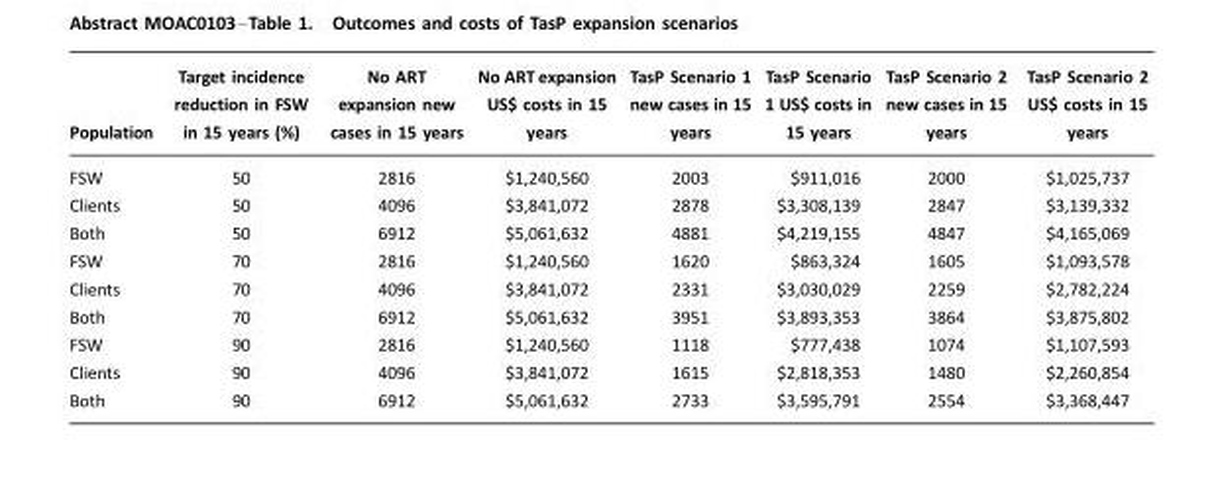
<table><thead><tr><td>Population</td><td>Target incidence reduction in FSW in 15 years (%)</td><td>No ART expansion new cases in 15 years</td><td>No ART expansion US$ costs in 15 years</td><td>TasP Scenario 1 new cases in 15 years</td><td>TasP Scenario 1 US$ costs in 15 years</td><td>TasP Scenario 2 new cases in 15 years</td><td>TasP Scenario 2 US$ costs in 15 years</td></tr></thead><tbody><tr><td>FSW</td><td>50</td><td>2816</td><td>$1,240,560</td><td>2003</td><td>$911,016</td><td>2000</td><td>$1,025,737</td></tr><tr><td>Clients</td><td>50</td><td>4096</td><td>$3,841,072</td><td>2878</td><td>$3,308,139</td><td>2847</td><td>$3,139,332</td></tr><tr><td>Both</td><td>50</td><td>6912</td><td>$5,061,632</td><td>4881</td><td>$4,219,155</td><td>4847</td><td>$4,165,069</td></tr><tr><td>FSW</td><td>70</td><td>2816</td><td>$1,240,560</td><td>1620</td><td>$863,324</td><td>1605</td><td>$1,093,578</td></tr><tr><td>Clients</td><td>70</td><td>4096</td><td>$3,841,072</td><td>2331</td><td>$3,030,029</td><td>2259</td><td>$2,782,224</td></tr><tr><td>Both</td><td>70</td><td>6912</td><td>$5,061,632</td><td>3951</td><td>$3,893,353</td><td>3864</td><td>$3,875,802</td></tr><tr><td>FSW</td><td>90</td><td>2816</td><td>$1,240,560</td><td>1118</td><td>$777,438</td><td>1074</td><td>$1,107,593</td></tr><tr><td>Clients</td><td>90</td><td>4096</td><td>$3,841,072</td><td>1615</td><td>$2,818,353</td><td>1480</td><td>$2,260,854</td></tr><tr><td>Both</td><td>90</td><td>6912</td><td>$5,061,632</td><td>2733</td><td>$3,595,791</td><td>2554</td><td>$3,368,447</td></tr></tbody></table>